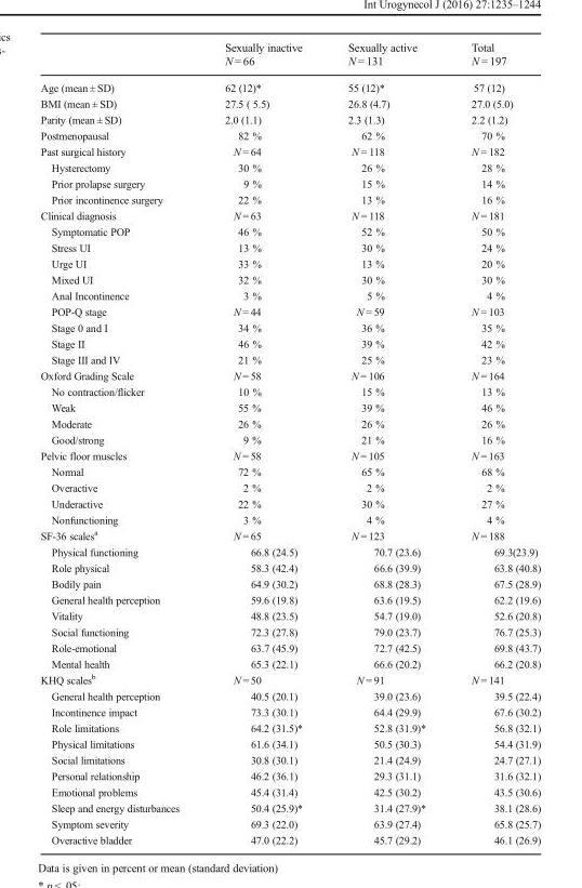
<table><thead><tr><td rowspan="2"></td><td rowspan="2">Sexually inactive N = 66</td><td rowspan="2">Sexually active N = 131</td><td rowspan="2">Total N = 197</td></tr><tr></tr></thead><tbody><tr><td>Age (mean ± SD)</td><td>62 (12)*</td><td>55 (12)*</td><td>57 (12)</td></tr><tr><td>BMI (mean ± SD)</td><td>27.5 ( 5.5)</td><td>26.8 (4.7)</td><td>27.0 (5.0)</td></tr><tr><td>Parity (mean ± SD)</td><td>2.0 (1.1)</td><td>2.3 (1.3)</td><td>2.2 (1.2)</td></tr><tr><td>Postmenopausal</td><td>82 %</td><td>62 %</td><td>70 %</td></tr><tr><td>Past surgical history</td><td>N = 64</td><td>N = 118</td><td>N = 182</td></tr><tr><td>Hysterectomy</td><td>30 %</td><td>26 %</td><td>28 %</td></tr><tr><td>Prior prolapse surgery</td><td>9 %</td><td>15 %</td><td>14 %</td></tr><tr><td>Prior incontinence surgery</td><td>22 %</td><td>13 %</td><td>16 %</td></tr><tr><td>Clinical diagnosis</td><td>N = 63</td><td>N = 118</td><td>N = 181</td></tr><tr><td>Symptomatic POP</td><td>46 %</td><td>52 %</td><td>50 %</td></tr><tr><td>Stress UI</td><td>13 %</td><td>30 %</td><td>24 %</td></tr><tr><td>Urge UI</td><td>33 %</td><td>13 %</td><td>20 %</td></tr><tr><td>Mixed UI</td><td>32 %</td><td>30 %</td><td>30 %</td></tr><tr><td>Anal Incontinence</td><td>3 %</td><td>5 %</td><td>4 %</td></tr><tr><td>POP-Q stage</td><td>N = 44</td><td>N = 59</td><td>N = 103</td></tr><tr><td>Stage 0 and I</td><td>34 %</td><td>36 %</td><td>35 %</td></tr><tr><td>Stage II</td><td>46 %</td><td>39 %</td><td>42 %</td></tr><tr><td>Stage III and IV</td><td>21 %</td><td>25 %</td><td>23 %</td></tr><tr><td>Oxford Grading Scale</td><td>N = 58</td><td>N = 106</td><td>N = 164</td></tr><tr><td>No contraction/flicker</td><td>10 %</td><td>15 %</td><td>13 %</td></tr><tr><td>Weak</td><td>55 %</td><td>39 %</td><td>46 %</td></tr><tr><td>Moderate</td><td>26 %</td><td>26 %</td><td>26 %</td></tr><tr><td>Good/strong</td><td>9 %</td><td>21 %</td><td>16 %</td></tr><tr><td>Pelvic floor muscles</td><td>N = 58</td><td>N = 105</td><td>N = 163</td></tr><tr><td>Normal</td><td>72 %</td><td>65 %</td><td>68 %</td></tr><tr><td>Overactive</td><td>2 %</td><td>2 %</td><td>2 %</td></tr><tr><td>Underactive</td><td>22 %</td><td>30 %</td><td>27 %</td></tr><tr><td>Nonfunctioning</td><td>3 %</td><td>4 %</td><td>4 %</td></tr><tr><td>SF-36 scales<sup>a</sup></td><td>N = 65</td><td>N = 123</td><td>N = 188</td></tr><tr><td>Physical functioning</td><td>66.8 (24.5)</td><td>70.7 (23.6)</td><td>69.3(23.9)</td></tr><tr><td>Role physical</td><td>58.3 (42.4)</td><td>66.6 (39.9)</td><td>63.8 (40.8)</td></tr><tr><td>Bodily pain</td><td>64.9 (30.2)</td><td>68.8 (28.3)</td><td>67.5 (28.9)</td></tr><tr><td>General health perception</td><td>59.6 (19.8)</td><td>63.6 (19.5)</td><td>62.2 (19.6)</td></tr><tr><td>Vitality</td><td>48.8 (23.5)</td><td>54.7 (19.0)</td><td>52.6 (20.8)</td></tr><tr><td>Social functioning</td><td>72.3 (27.8)</td><td>79.0 (23.7)</td><td>76.7 (25.3)</td></tr><tr><td>Role-emotional</td><td>63.7 (45.9)</td><td>72.7 (42.5)</td><td>69.8 (43.7)</td></tr><tr><td>Mental health</td><td>65.3 (22.1)</td><td>66.6 (20.2)</td><td>66.2 (20.8)</td></tr><tr><td>KHQ scales<sup>b</sup></td><td>N = 50</td><td>N = 91</td><td>N = 141</td></tr><tr><td>General health perception</td><td>40.5 (20.1)</td><td>39.0 (23.6)</td><td>39.5 (22.4)</td></tr><tr><td>Incontinence impact</td><td>73.3 (30.1)</td><td>64.4 (29.9)</td><td>67.6 (30.2)</td></tr><tr><td>Role limitations</td><td>64.2 (31.5)*</td><td>52.8 (31.9)*</td><td>56.8 (32.1)</td></tr><tr><td>Physical limitations</td><td>61.6 (34.1)</td><td>50.5 (30.3)</td><td>54.4 (31.9)</td></tr><tr><td>Social limitations</td><td>30.8 (30.1)</td><td>21.4 (24.9)</td><td>24.7 (27.1)</td></tr><tr><td>Personal relationship</td><td>46.2 (36.1)</td><td>29.3 (31.1)</td><td>31.6 (32.1)</td></tr><tr><td>Emotional problems</td><td>45.4 (31.4)</td><td>42.5 (30.2)</td><td>43.5 (30.6)</td></tr><tr><td>Sleep and energy disturbances</td><td>50.4 (25.9)*</td><td>31.4 (27.9)*</td><td>38.1 (28.6)</td></tr><tr><td>Symptom severity</td><td>69.3 (22.0)</td><td>63.9 (27.4)</td><td>65.8 (25.7)</td></tr><tr><td>Overactive bladder</td><td>47.0 (22.2)</td><td>45.7 (29.2)</td><td>46.1 (26.9)</td></tr></tbody></table>